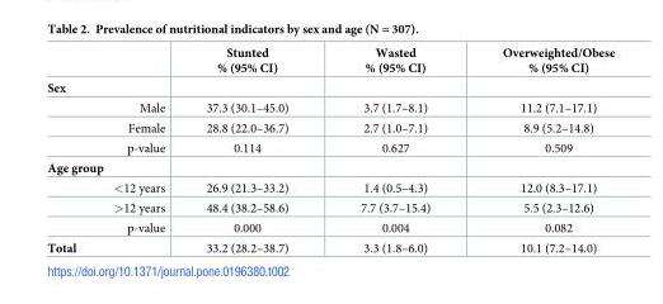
<table><thead><tr><td></td><td>Stunted % (95% CI)</td><td>Wasted % (95% CI)</td><td>Overweighted/Obese % (95% CI)</td></tr></thead><tbody><tr><td colspan="4">Sex</td></tr><tr><td>Male</td><td>37.3 (30.1–45.0)</td><td>3.7 (1.7–8.1)</td><td>11.2 (7.1–17.1)</td></tr><tr><td>Female</td><td>28.8 (22.0–36.7)</td><td>2.7 (1.0–7.1)</td><td>8.9 (5.2–14.8)</td></tr><tr><td>p-value</td><td>0.114</td><td>0.627</td><td>0.509</td></tr><tr><td colspan="4">Age group</td></tr><tr><td>&lt;12 years</td><td>26.9 (21.3–33.2)</td><td>1.4 (0.5–4.3)</td><td>12.0 (8.3–17.1)</td></tr><tr><td>&gt;12 years</td><td>48.4 (38.2–58.6)</td><td>7.7 (3.7–15.4)</td><td>5.5 (2.3–12.6)</td></tr><tr><td>p-value</td><td>0.000</td><td>0.004</td><td>0.082</td></tr><tr><td>Total</td><td>33.2 (28.2–38.7)</td><td>3.3 (1.8–6.0)</td><td>10.1 (7.2–14.0)</td></tr></tbody></table>